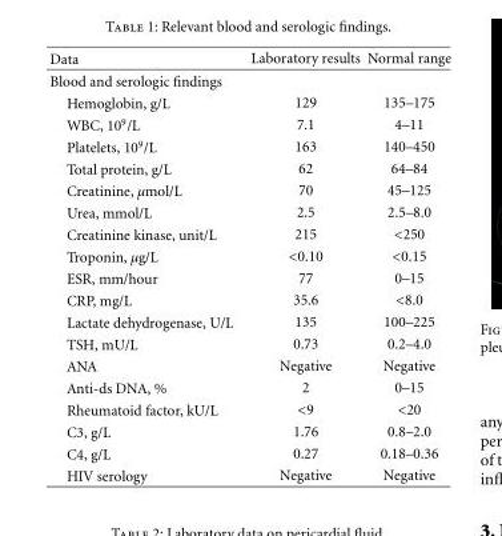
<table><thead><tr><td>Data</td><td>Laboratory results</td><td>Normal range</td></tr></thead><tbody><tr><td colspan="3">Blood and serologic findings</td></tr><tr><td>Hemoglobin, g/L</td><td>129</td><td>135–175</td></tr><tr><td>WBC, 10<sup>9</sup>/L</td><td>7.1</td><td>4–11</td></tr><tr><td>Platelets, 10<sup>9</sup>/L</td><td>163</td><td>140–450</td></tr><tr><td>Total protein, g/L</td><td>62</td><td>64–84</td></tr><tr><td>Creatinine, µmol/L</td><td>70</td><td>45–125</td></tr><tr><td>Urea, mmol/L</td><td>2.5</td><td>2.5–8.0</td></tr><tr><td>Creatinine kinase, unit/L</td><td>215</td><td>&lt;250</td></tr><tr><td>Troponin, µg/L</td><td>&lt;0.10</td><td>&lt;0.15</td></tr><tr><td>ESR, mm/hour</td><td>77</td><td>0–15</td></tr><tr><td>CRP, mg/L</td><td>35.6</td><td>&lt;8.0</td></tr><tr><td>Lactate dehydrogenase, U/L</td><td>135</td><td>100–225</td></tr><tr><td>TSH, mU/L</td><td>0.73</td><td>0.2–4.0</td></tr><tr><td>ANA</td><td>Negative</td><td>Negative</td></tr><tr><td>Anti-ds DNA, %</td><td>2</td><td>0–15</td></tr><tr><td>Rheumatoid factor, kU/L</td><td>&lt;9</td><td>&lt;20</td></tr><tr><td>C3, g/L</td><td>1.76</td><td>0.8–2.0</td></tr><tr><td>C4, g/L</td><td>0.27</td><td>0.18–0.36</td></tr><tr><td>HIV serology</td><td>Negative</td><td>Negative</td></tr></tbody></table>